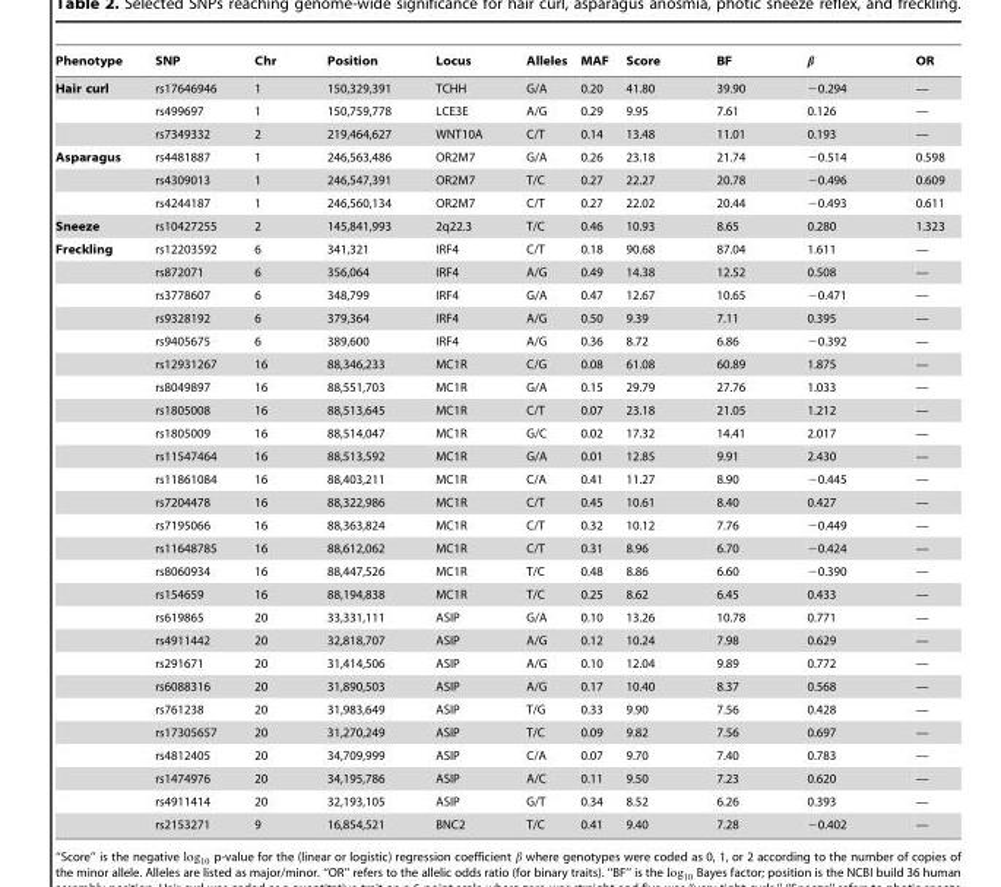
<table><thead><tr><td>Phenotype</td><td>SNP</td><td>Chr</td><td>Position</td><td>Locus</td><td>Alleles</td><td>MAF</td><td>Score</td><td>BF</td><td>b</td><td>OR</td></tr></thead><tbody><tr><td rowspan="3">Hair curl</td><td>rs17646946</td><td>1</td><td>150,329,391</td><td>TCHH</td><td>G/A</td><td>0.20</td><td>41.80</td><td>39.90</td><td>−0.294</td><td>—</td></tr><tr><td>rs499697</td><td>1</td><td>150,759,778</td><td>LCE3E</td><td>A/G</td><td>0.29</td><td>9.95</td><td>7.61</td><td>0.126</td><td>—</td></tr><tr><td>rs7349332</td><td>2</td><td>219,464,627</td><td>WNT10A</td><td>C/T</td><td>0.14</td><td>13.48</td><td>11.01</td><td>0.193</td><td>—</td></tr><tr><td rowspan="3">Asparagus</td><td>rs4481887</td><td>1</td><td>246,563,486</td><td>OR2M7</td><td>G/A</td><td>0.26</td><td>23.18</td><td>21.74</td><td>−0.514</td><td>0.598</td></tr><tr><td>rs4309013</td><td>1</td><td>246,547,391</td><td>OR2M7</td><td>T/C</td><td>0.27</td><td>22.27</td><td>20.78</td><td>−0.496</td><td>0.609</td></tr><tr><td>rs4244187</td><td>1</td><td>246,560,134</td><td>OR2M7</td><td>C/T</td><td>0.27</td><td>22.02</td><td>20.44</td><td>−0.493</td><td>0.611</td></tr><tr><td>Sneeze</td><td>rs10427255</td><td>2</td><td>145,841,993</td><td>2q22.3</td><td>T/C</td><td>0.46</td><td>10.93</td><td>8.65</td><td>0.280</td><td>1.323</td></tr><tr><td rowspan="26">Freckling</td><td>rs12203592</td><td>6</td><td>341,321</td><td>IRF4</td><td>C/T</td><td>0.18</td><td>90.68</td><td>87.04</td><td>1.611</td><td>—</td></tr><tr><td>rs872071</td><td>6</td><td>356,064</td><td>IRF4</td><td>A/G</td><td>0.49</td><td>14.38</td><td>12.52</td><td>0.508</td><td>—</td></tr><tr><td>rs3778607</td><td>6</td><td>348,799</td><td>IRF4</td><td>G/A</td><td>0.47</td><td>12.67</td><td>10.65</td><td>−0.471</td><td>—</td></tr><tr><td>rs9328192</td><td>6</td><td>379,364</td><td>IRF4</td><td>A/G</td><td>0.50</td><td>9.39</td><td>7.11</td><td>0.395</td><td>—</td></tr><tr><td>rs9405675</td><td>6</td><td>389,600</td><td>IRF4</td><td>A/G</td><td>0.36</td><td>8.72</td><td>6.86</td><td>−0.392</td><td>—</td></tr><tr><td>rs12931267</td><td>16</td><td>88,346,233</td><td>MC1R</td><td>C/G</td><td>0.08</td><td>61.08</td><td>60.89</td><td>1.875</td><td>—</td></tr><tr><td>rs8049897</td><td>16</td><td>88,551,703</td><td>MC1R</td><td>G/A</td><td>0.15</td><td>29.79</td><td>27.76</td><td>1.033</td><td>—</td></tr><tr><td>rs1805008</td><td>16</td><td>88,513,645</td><td>MC1R</td><td>C/T</td><td>0.07</td><td>23.18</td><td>21.05</td><td>1.212</td><td>—</td></tr><tr><td>rs1805009</td><td>16</td><td>88,514,047</td><td>MC1R</td><td>G/C</td><td>0.02</td><td>17.32</td><td>14.41</td><td>2.017</td><td>—</td></tr><tr><td>rs11547464</td><td>16</td><td>88,513,592</td><td>MC1R</td><td>G/A</td><td>0.01</td><td>12.85</td><td>9.91</td><td>2.430</td><td>—</td></tr><tr><td>rs11861084</td><td>16</td><td>88,403,211</td><td>MC1R</td><td>C/A</td><td>0.41</td><td>11.27</td><td>8.90</td><td>−0.445</td><td>—</td></tr><tr><td>rs7204478</td><td>16</td><td>88,322,986</td><td>MC1R</td><td>C/T</td><td>0.45</td><td>10.61</td><td>8.40</td><td>0.427</td><td>—</td></tr><tr><td>rs7195066</td><td>16</td><td>88,363,824</td><td>MC1R</td><td>C/T</td><td>0.32</td><td>10.12</td><td>7.76</td><td>−0.449</td><td>—</td></tr><tr><td>rs11648785</td><td>16</td><td>88,612,062</td><td>MC1R</td><td>C/T</td><td>0.31</td><td>8.96</td><td>6.70</td><td>−0.424</td><td>—</td></tr><tr><td>rs8060934</td><td>16</td><td>88,447,526</td><td>MC1R</td><td>T/C</td><td>0.48</td><td>8.86</td><td>6.60</td><td>−0.390</td><td>—</td></tr><tr><td>rs154659</td><td>16</td><td>88,194,838</td><td>MC1R</td><td>T/C</td><td>0.25</td><td>8.62</td><td>6.45</td><td>0.433</td><td>—</td></tr><tr><td>rs619865</td><td>20</td><td>33,331,111</td><td>ASIP</td><td>G/A</td><td>0.10</td><td>13.26</td><td>10.78</td><td>0.771</td><td>—</td></tr><tr><td>rs4911442</td><td>20</td><td>32,818,707</td><td>ASIP</td><td>A/G</td><td>0.12</td><td>10.24</td><td>7.98</td><td>0.629</td><td>—</td></tr><tr><td>rs291671</td><td>20</td><td>31,414,506</td><td>ASIP</td><td>A/G</td><td>0.10</td><td>12.04</td><td>9.89</td><td>0.772</td><td>—</td></tr><tr><td>rs6088316</td><td>20</td><td>31,890,503</td><td>ASIP</td><td>A/G</td><td>0.17</td><td>10.40</td><td>8.37</td><td>0.568</td><td>—</td></tr><tr><td>rs761238</td><td>20</td><td>31,983,649</td><td>ASIP</td><td>T/G</td><td>0.33</td><td>9.90</td><td>7.56</td><td>0.428</td><td>—</td></tr><tr><td>rs17305657</td><td>20</td><td>31,270,249</td><td>ASIP</td><td>T/C</td><td>0.09</td><td>9.82</td><td>7.56</td><td>0.697</td><td>—</td></tr><tr><td>rs4812405</td><td>20</td><td>34,709,999</td><td>ASIP</td><td>C/A</td><td>0.07</td><td>9.70</td><td>7.40</td><td>0.783</td><td>—</td></tr><tr><td>rs1474976</td><td>20</td><td>34,195,786</td><td>ASIP</td><td>A/C</td><td>0.11</td><td>9.50</td><td>7.23</td><td>0.620</td><td>—</td></tr><tr><td>rs4911414</td><td>20</td><td>32,193,105</td><td>ASIP</td><td>G/T</td><td>0.34</td><td>8.52</td><td>6.26</td><td>0.393</td><td>—</td></tr><tr><td>rs2153271</td><td>9</td><td>16,854,521</td><td>BNC2</td><td>T/C</td><td>0.41</td><td>9.40</td><td>7.28</td><td>−0.402</td><td>—</td></tr></tbody></table>